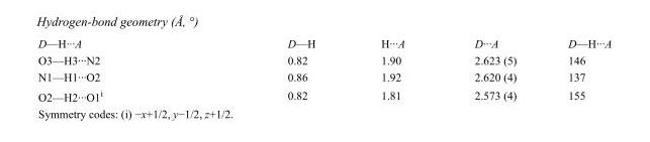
<table><tbody><tr><td>D—H···A</td><td>D—H</td><td>H···A</td><td>D···A</td><td>D—H···A</td></tr><tr><td>O3—H3···N2</td><td>0.82</td><td>1.90</td><td>2.623 (5)</td><td>146</td></tr><tr><td>N1—H1···O2</td><td>0.86</td><td>1.92</td><td>2.620 (4)</td><td>137</td></tr><tr><td>O2—H2···O1<sup>i</sup></td><td>0.82</td><td>1.81</td><td>2.573 (4)</td><td>155</td></tr></tbody></table>